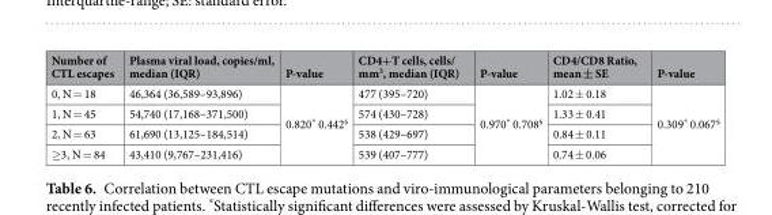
<table><thead><tr><td>Number of CTL escapes</td><td>Plasma viral load, copies/ml, median (IQR)</td><td>P-value</td><td>CD4+T cells, cells/ mm<sup>3</sup>, median (IQR)</td><td>P-value</td><td>CD4/CD8 Ratio, mean ± SE</td><td>P-value</td></tr></thead><tbody><tr><td>0, N = 18</td><td>46,364 (36,589–93,896)</td><td rowspan="4">0.820* 0.442<sup>§</sup></td><td>477 (395–720)</td><td rowspan="4">0.970* 0.708<sup>§</sup></td><td>1.02 ± 0.18</td><td rowspan="4">0.309* 0.067<sup>§</sup></td></tr><tr><td>1, N = 45</td><td>54,740 (17,168–371,500)</td><td>574 (430–728)</td><td>1.33 ± 0.41</td></tr><tr><td>2, N = 63</td><td>61,690 (13,125–184,514)</td><td>538 (429–697)</td><td>0.84 ± 0.11</td></tr><tr><td>≥3, N = 84</td><td>43,410 (9,767–231,416)</td><td>539 (407–777)</td><td>0.74 ± 0.06</td></tr></tbody></table>